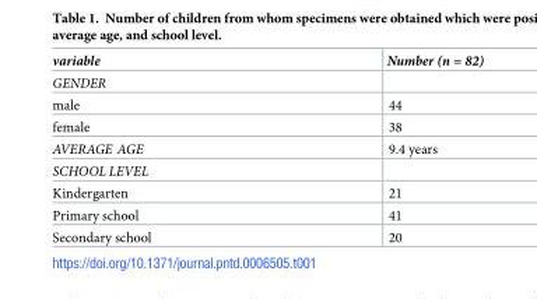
<table><thead><tr><td>variable</td><td>Number (n = 82)</td></tr></thead><tbody><tr><td colspan="2">GENDER</td></tr><tr><td>male</td><td>44</td></tr><tr><td>female</td><td>38</td></tr><tr><td>AVERAGE AGE</td><td>9.4 years</td></tr><tr><td colspan="2">SCHOOL LEVEL</td></tr><tr><td>Kindergarten</td><td>21</td></tr><tr><td>Primary school</td><td>41</td></tr><tr><td>Secondary school</td><td>20</td></tr></tbody></table>